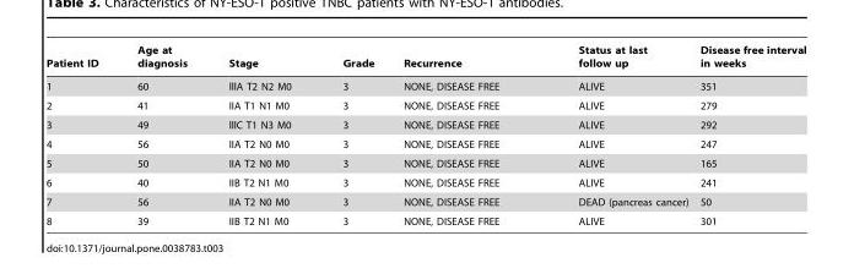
<table><thead><tr><td>Patient ID</td><td>Age at diagnosis</td><td>Stage</td><td>Grade</td><td>Recurrence</td><td>Status at last follow up</td><td>Disease free interval in weeks</td></tr></thead><tbody><tr><td>1</td><td>60</td><td>lllA T2 N2 M0</td><td>3</td><td>NONE, DISEASE FREE</td><td>ALIVE</td><td>351</td></tr><tr><td>2</td><td>41</td><td>IIA T1 N1 M0</td><td>3</td><td>NONE, DISEASE FREE</td><td>ALIVE</td><td>279</td></tr><tr><td>3</td><td>49</td><td>lllC T1 N3 M0</td><td>3</td><td>NONE, DISEASE FREE</td><td>ALIVE</td><td>292</td></tr><tr><td>4</td><td>56</td><td>IIA T2 N0 M0</td><td>3</td><td>NONE, DISEASE FREE</td><td>ALIVE</td><td>247</td></tr><tr><td>5</td><td>50</td><td>IIA T2 N0 M0</td><td>3</td><td>NONE, DISEASE FREE</td><td>ALIVE</td><td>165</td></tr><tr><td>6</td><td>40</td><td>IIB T2 N1 M0</td><td>3</td><td>NONE, DISEASE FREE</td><td>ALIVE</td><td>241</td></tr><tr><td>7</td><td>56</td><td>IIA T2 N0 M0</td><td>3</td><td>NONE, DISEASE FREE</td><td>DEAD (pancreas cancer)</td><td>50</td></tr><tr><td>8</td><td>39</td><td>IIB T2 N1 M0</td><td>3</td><td>NONE, DISEASE FREE</td><td>ALIVE</td><td>301</td></tr></tbody></table>